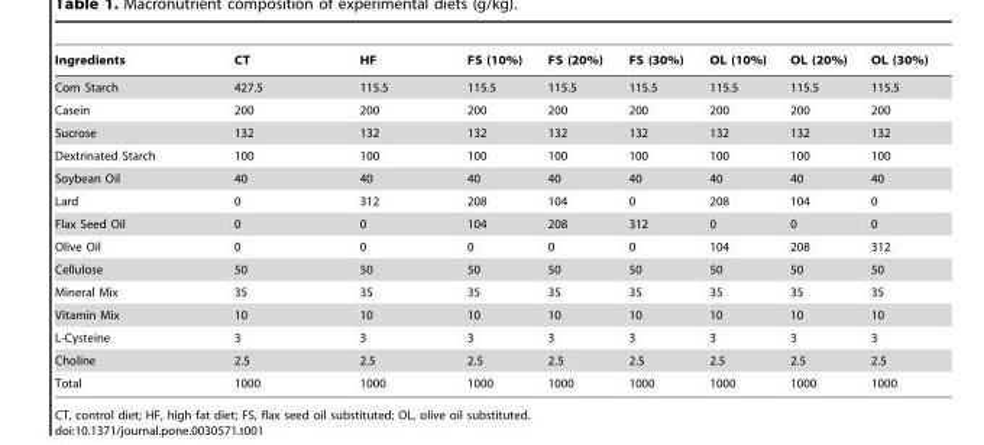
<table><thead><tr><td>Ingredients</td><td>CT</td><td>HF</td><td>FS (10%)</td><td>FS (20%)</td><td>FS (30%)</td><td>OL (10%)</td><td>OL (20%)</td><td>OL (30%)</td></tr></thead><tbody><tr><td>Corn Starch</td><td>427.5</td><td>115.5</td><td>115.5</td><td>115.5</td><td>115.5</td><td>115.5</td><td>115.5</td><td>115.5</td></tr><tr><td>Casein</td><td>200</td><td>200</td><td>200</td><td>200</td><td>200</td><td>200</td><td>200</td><td>200</td></tr><tr><td>Sucrose</td><td>132</td><td>132</td><td>132</td><td>132</td><td>132</td><td>132</td><td>132</td><td>132</td></tr><tr><td>Dextrinated Starch</td><td>100</td><td>100</td><td>100</td><td>100</td><td>100</td><td>100</td><td>100</td><td>100</td></tr><tr><td>Soybean Oil</td><td>40</td><td>40</td><td>40</td><td>40</td><td>40</td><td>40</td><td>40</td><td>40</td></tr><tr><td>Lard</td><td>0</td><td>312</td><td>208</td><td>104</td><td>0</td><td>208</td><td>104</td><td>0</td></tr><tr><td>Flax Seed Oil</td><td>0</td><td>0</td><td>104</td><td>208</td><td>312</td><td>0</td><td>0</td><td>0</td></tr><tr><td>Olive Oil</td><td>0</td><td>0</td><td>0</td><td>0</td><td>0</td><td>104</td><td>208</td><td>312</td></tr><tr><td>Cellulose</td><td>50</td><td>50</td><td>50</td><td>50</td><td>50</td><td>50</td><td>50</td><td>50</td></tr><tr><td>Mineral Mix</td><td>35</td><td>35</td><td>35</td><td>35</td><td>35</td><td>35</td><td>35</td><td>35</td></tr><tr><td>Vitamin Mix</td><td>10</td><td>10</td><td>10</td><td>10</td><td>10</td><td>10</td><td>10</td><td>10</td></tr><tr><td>L-Cysteine</td><td>3</td><td>3</td><td>3</td><td>3</td><td>3</td><td>3</td><td>3</td><td>3</td></tr><tr><td>Choline</td><td>2.5</td><td>2.5</td><td>2.5</td><td>2.5</td><td>2.5</td><td>2.5</td><td>2.5</td><td>2.5</td></tr><tr><td>Total</td><td>1000</td><td>1000</td><td>1000</td><td>1000</td><td>1000</td><td>1000</td><td>1000</td><td>1000</td></tr></tbody></table>